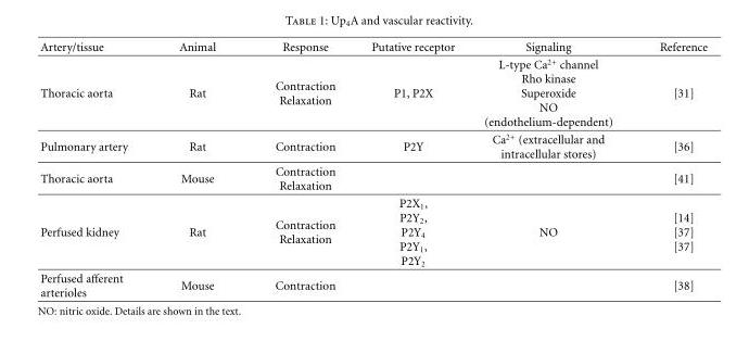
<table><thead><tr><td>Artery/tissue</td><td>Animal</td><td>Response</td><td>Putative receptor</td><td>Signaling</td><td>Reference</td></tr></thead><tbody><tr><td>Thoracic aorta</td><td>Rat</td><td>Contraction Relaxation</td><td>P1, P2X</td><td>L-type Ca<sup>2+</sup> channel Rho kinase Superoxide NO (endothelium-dependent)</td><td>[31]</td></tr><tr><td>Pulmonary artery</td><td>Rat</td><td>Contraction</td><td>P2Y</td><td>Ca<sup>2+</sup> (extracellular and intracellular stores)</td><td>[36]</td></tr><tr><td>Thoracic aorta</td><td>Mouse</td><td>Contraction Relaxation</td><td></td><td></td><td>[41]</td></tr><tr><td>Perfused kidney</td><td>Rat</td><td>Contraction Relaxation</td><td>P2X<sub>1</sub>, P2Y<sub>2</sub>, P2Y<sub>4</sub> P2Y<sub>1</sub>, P2Y<sub>2</sub></td><td>NO</td><td>[14] [37] [37]</td></tr><tr><td>Perfused afferent arterioles</td><td>Mouse</td><td>Contraction</td><td></td><td></td><td>[38]</td></tr></tbody></table>